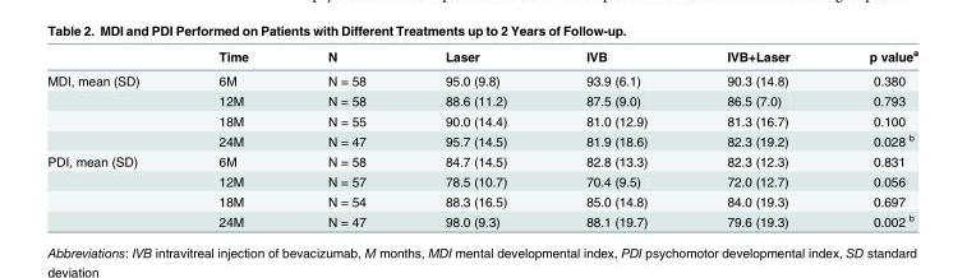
<table><thead><tr><td></td><td>Time</td><td>N</td><td>Laser</td><td>IVB</td><td>IVB+Laser</td><td>p value<sup>a</sup></td></tr></thead><tbody><tr><td rowspan="4">MDI, mean (SD)</td><td>6M</td><td>N = 58</td><td>95.0 (9.8)</td><td>93.9 (6.1)</td><td>90.3 (14.8)</td><td>0.380</td></tr><tr><td>12M</td><td>N = 58</td><td>88.6 (11.2)</td><td>87.5 (9.0)</td><td>86.5 (7.0)</td><td>0.793</td></tr><tr><td>18M</td><td>N = 55</td><td>90.0 (14.4)</td><td>81.0 (12.9)</td><td>81.3 (16.7)</td><td>0.100</td></tr><tr><td>24M</td><td>N = 47</td><td>95.7 (14.5)</td><td>81.9 (18.6)</td><td>82.3 (19.2)</td><td>0.028 <sup>b</sup></td></tr><tr><td rowspan="4">PDI, mean (SD)</td><td>6M</td><td>N = 58</td><td>84.7 (14.5)</td><td>82.8 (13.3)</td><td>82.3 (12.3)</td><td>0.831</td></tr><tr><td>12M</td><td>N = 57</td><td>78.5 (10.7)</td><td>70.4 (9.5)</td><td>72.0 (12.7)</td><td>0.056</td></tr><tr><td>18M</td><td>N = 54</td><td>88.3 (16.5)</td><td>85.0 (14.8)</td><td>84.0 (19.3)</td><td>0.697</td></tr><tr><td>24M</td><td>N = 47</td><td>98.0 (9.3)</td><td>88.1 (19.7)</td><td>79.6 (19.3)</td><td>0.002 <sup>b</sup></td></tr></tbody></table>